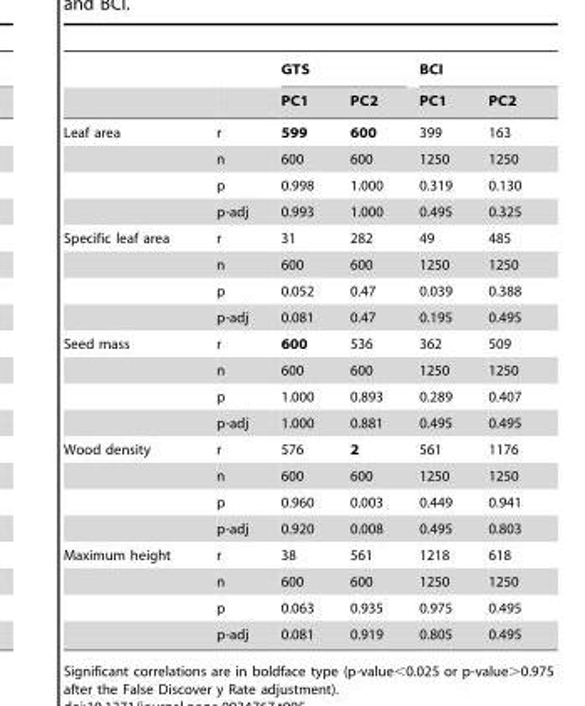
<table><thead><tr><td rowspan="2"></td><td rowspan="2"></td><td colspan="2">GTS</td><td colspan="2">BCI</td></tr><tr><td>PC1</td><td>PC2</td><td>PC1</td><td>PC2</td></tr></thead><tbody><tr><td rowspan="4">Leaf area</td><td>r</td><td>599</td><td>600</td><td>399</td><td>163</td></tr><tr><td>n</td><td>600</td><td>600</td><td>1250</td><td>1250</td></tr><tr><td>p</td><td>0.998</td><td>1.000</td><td>0.319</td><td>0.130</td></tr><tr><td>p-adj</td><td>0.993</td><td>1.000</td><td>0.495</td><td>0.325</td></tr><tr><td rowspan="4">Specific leaf area</td><td>r</td><td>31</td><td>282</td><td>49</td><td>485</td></tr><tr><td>n</td><td>600</td><td>600</td><td>1250</td><td>1250</td></tr><tr><td>p</td><td>0.052</td><td>0.47</td><td>0.039</td><td>0.388</td></tr><tr><td>p-adj</td><td>0.081</td><td>0.47</td><td>0.195</td><td>0.495</td></tr><tr><td rowspan="4">Seed mass</td><td>r</td><td>600</td><td>536</td><td>362</td><td>509</td></tr><tr><td>n</td><td>600</td><td>600</td><td>1250</td><td>1250</td></tr><tr><td>p</td><td>1.000</td><td>0.893</td><td>0.289</td><td>0.407</td></tr><tr><td>p-adj</td><td>1.000</td><td>0.881</td><td>0.495</td><td>0.495</td></tr><tr><td rowspan="4">Wood density</td><td>r</td><td>576</td><td>2</td><td>561</td><td>1176</td></tr><tr><td>n</td><td>600</td><td>600</td><td>1250</td><td>1250</td></tr><tr><td>p</td><td>0.960</td><td>0.003</td><td>0.449</td><td>0.941</td></tr><tr><td>p-adj</td><td>0.920</td><td>0.008</td><td>0.495</td><td>0.803</td></tr><tr><td rowspan="4">Maximum height</td><td>r</td><td>38</td><td>561</td><td>1218</td><td>618</td></tr><tr><td>n</td><td>600</td><td>600</td><td>1250</td><td>1250</td></tr><tr><td>p</td><td>0.063</td><td>0.935</td><td>0.975</td><td>0.495</td></tr><tr><td>p-adj</td><td>0.081</td><td>0.919</td><td>0.805</td><td>0.495</td></tr></tbody></table>